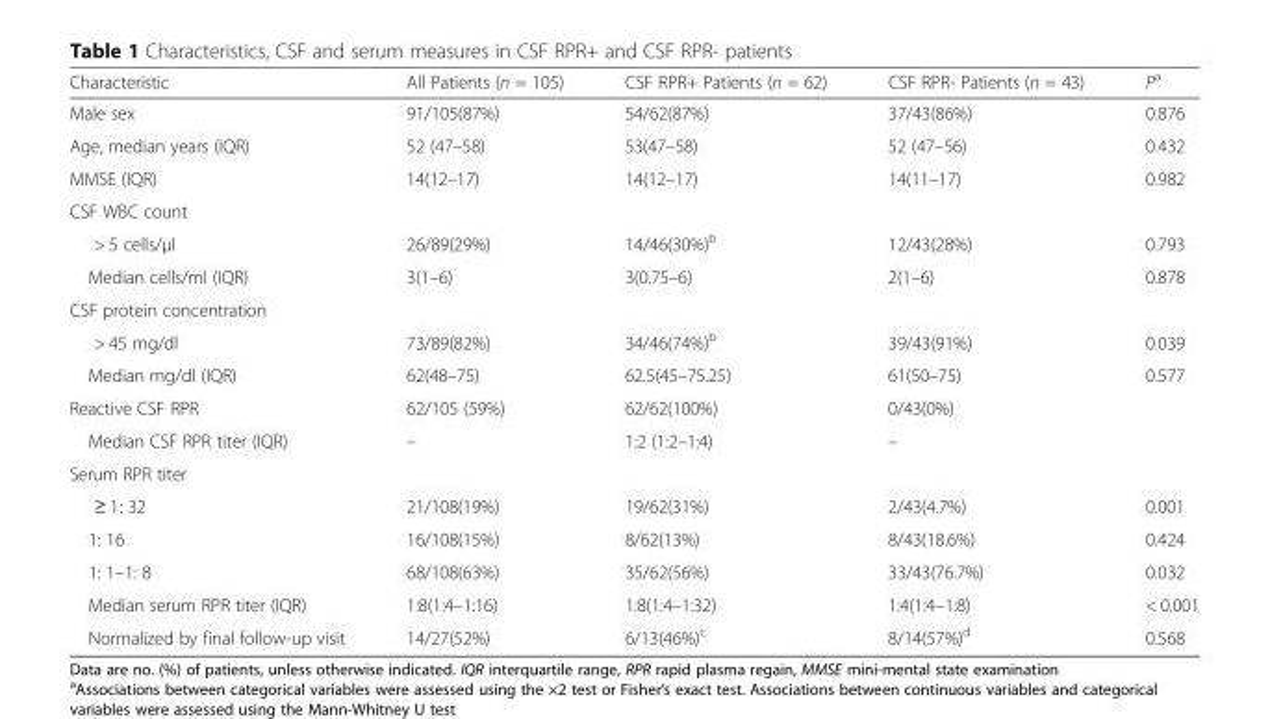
<table><thead><tr><td>Characteristic</td><td>All Patients (n = 105)</td><td>CSF RPR+ Patients (n = 62)</td><td>CSF RPR- Patients (n = 43)</td><td>P<sup>a</sup></td></tr></thead><tbody><tr><td>Male sex</td><td>91/105(87%)</td><td>54/62(87%)</td><td>37/43(86%)</td><td>0.876</td></tr><tr><td>Age, median years (IQR)</td><td>52 (47–58)</td><td>53(47–58)</td><td>52 (47–56)</td><td>0.432</td></tr><tr><td>MMSE (IQR)</td><td>14(12–17)</td><td>14(12–17)</td><td>14(11–17)</td><td>0.982</td></tr><tr><td colspan="5">CSF WBC count</td></tr><tr><td>&gt; 5 cells/μl</td><td>26/89(29%)</td><td>14/46(30%)<sup>b</sup></td><td>12/43(28%)</td><td>0.793</td></tr><tr><td>Median cells/ml (IQR)</td><td>3(1–6)</td><td>3(0.75–6)</td><td>2(1–6)</td><td>0.878</td></tr><tr><td colspan="5">CSF protein concentration</td></tr><tr><td>&gt; 45 mg/dl</td><td>73/89(82%)</td><td>34/46(74%)<sup>b</sup></td><td>39/43(91%)</td><td>0.039</td></tr><tr><td>Median mg/dl (IQR)</td><td>62(48–75)</td><td>62.5(45–75.25)</td><td>61(50–75)</td><td>0.577</td></tr><tr><td>Reactive CSF RPR</td><td>62/105 (59%)</td><td>62/62(100%)</td><td>0/43(0%)</td><td></td></tr><tr><td>Median CSF RPR titer (IQR)</td><td>–</td><td>1:2 (1:2–1:4)</td><td>–</td><td></td></tr><tr><td colspan="5">Serum RPR titer</td></tr><tr><td>≥ 1: 32</td><td>21/108(19%)</td><td>19/62(31%)</td><td>2/43(4.7%)</td><td>0.001</td></tr><tr><td>1: 16</td><td>16/108(15%)</td><td>8/62(13%)</td><td>8/43(18.6%)</td><td>0.424</td></tr><tr><td>1: 1–1: 8</td><td>68/108(63%)</td><td>35/62(56%)</td><td>33/43(76.7%)</td><td>0.032</td></tr><tr><td>Median serum RPR titer (IQR)</td><td>1:8(1:4–1:16)</td><td>1:8(1:4–1:32)</td><td>1:4(1:4–1:8)</td><td>&lt; 0.001</td></tr><tr><td>Normalized by final follow-up visit</td><td>14/27(52%)</td><td>6/13(46%)<sup>c</sup></td><td>8/14(57%)<sup>d</sup></td><td>0.568</td></tr></tbody></table>